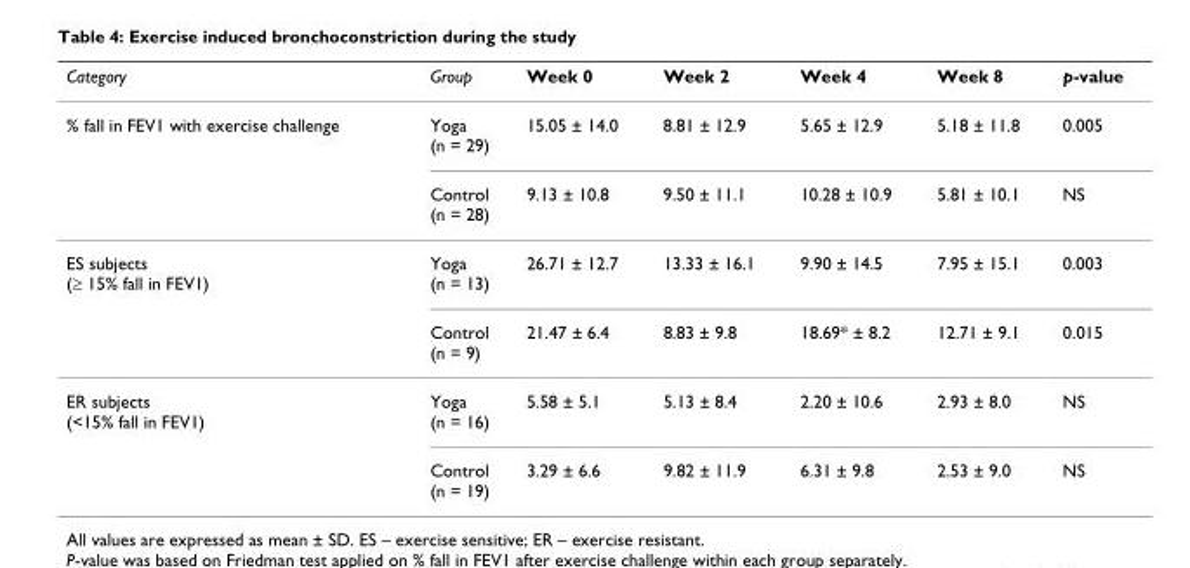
<table><thead><tr><td>Category</td><td>Group</td><td>Week 0</td><td>Week 2</td><td>Week 4</td><td>Week 8</td><td>p-value</td></tr></thead><tbody><tr><td rowspan="2">% fall in FEV1 with exercise challenge</td><td>Yoga (n = 29)</td><td>15.05 ± 14.0</td><td>8.81 ± 12.9</td><td>5.65 ± 12.9</td><td>5.18 ± 11.8</td><td>0.005</td></tr><tr><td>Control (n = 28)</td><td>9.13 ± 10.8</td><td>9.50 ± 11.1</td><td>10.28 ± 10.9</td><td>5.81 ± 10.1</td><td>NS</td></tr><tr><td rowspan="2">ES subjects (≥ 15% fall in FEV1)</td><td>Yoga (n = 13)</td><td>26.71 ± 12.7</td><td>13.33 ± 16.1</td><td>9.90 ± 14.5</td><td>7.95 ± 15.1</td><td>0.003</td></tr><tr><td>Control (n = 9)</td><td>21.47 ± 6.4</td><td>8.83 ± 9.8</td><td>18.69* ± 8.2</td><td>12.71 ± 9.1</td><td>0.015</td></tr><tr><td rowspan="2">ER subjects (&lt;15% fall in FEV1)</td><td>Yoga (n = 16)</td><td>5.58 ± 5.1</td><td>5.13 ± 8.4</td><td>2.20 ± 10.6</td><td>2.93 ± 8.0</td><td>NS</td></tr><tr><td>Control (n = 19)</td><td>3.29 ± 6.6</td><td>9.82 ± 11.9</td><td>6.31 ± 9.8</td><td>2.53 ± 9.0</td><td>NS</td></tr></tbody></table>